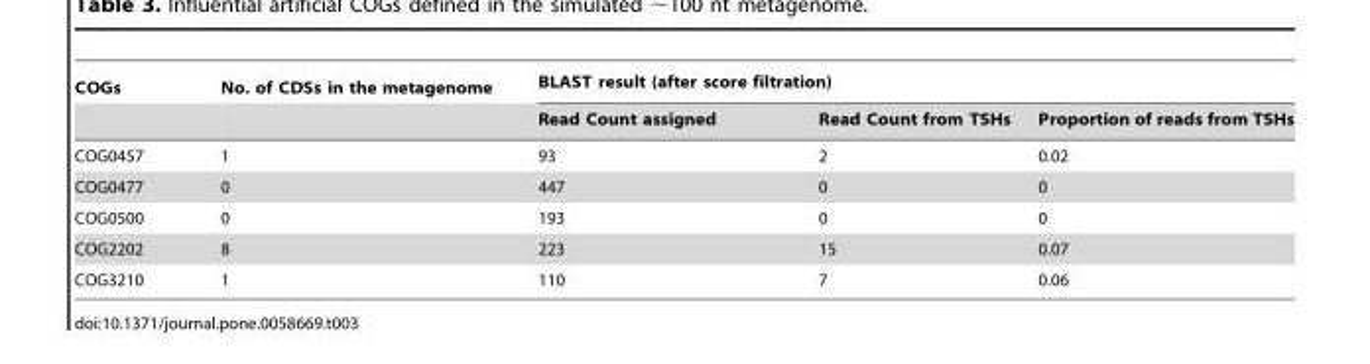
<table><thead><tr><td rowspan="2">COGs</td><td rowspan="2">No. of CDSs in the metagenome</td><td colspan="3">BLAST result (after score filtration)</td></tr><tr><td>Read Count assigned</td><td>Read Count from TSHs</td><td>Proportion of reads from TSHs</td></tr></thead><tbody><tr><td>COG0457</td><td>1</td><td>93</td><td>2</td><td>0.02</td></tr><tr><td>COG0477</td><td>0</td><td>447</td><td>0</td><td>0</td></tr><tr><td>COG0500</td><td>0</td><td>193</td><td>0</td><td>0</td></tr><tr><td>COG2202</td><td>8</td><td>223</td><td>15</td><td>0.07</td></tr><tr><td>COG3210</td><td>1</td><td>110</td><td>7</td><td>0.06</td></tr></tbody></table>